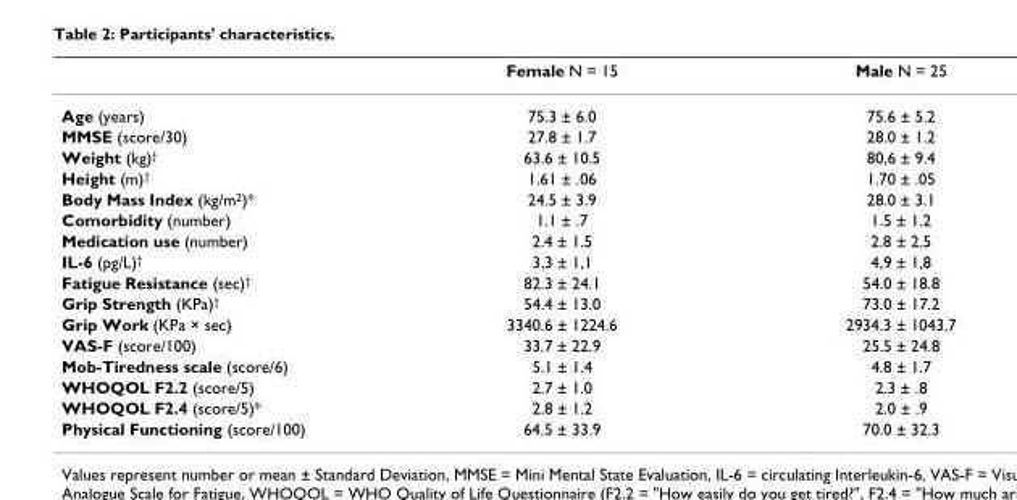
<table><thead><tr><td></td><td>Female N = 15</td><td>Male N = 25</td></tr></thead><tbody><tr><td>Age (years)</td><td>75.3 ± 6.0</td><td>75.6 ± 5.2</td></tr><tr><td>MMSE (score/30)</td><td>27.8 ± 1.7</td><td>28.0 ± 1.2</td></tr><tr><td>Weight (kg)†</td><td>63.6 ± 10.5</td><td>80,6 ± 9.4</td></tr><tr><td>Height (m)†</td><td>1.61 ± .06</td><td>1.70 ± .05</td></tr><tr><td>Body Mass Index (kg/m2)*</td><td>24.5 ± 3.9</td><td>28.0 ± 3.1</td></tr><tr><td>Comorbidity (number)</td><td>1.1 ± .7</td><td>1.5 ± 1.2</td></tr><tr><td>Medication use (number)</td><td>2.4 ± 1.5</td><td>2.8 ± 2.5</td></tr><tr><td>IL-6 (pg/L)†</td><td>3,3 ± 1,1</td><td>4,9 ± 1,8</td></tr><tr><td>Fatigue Resistance (sec)†</td><td>82.3 ± 24.1</td><td>54.0 ± 18.8</td></tr><tr><td>Grip Strength (KPa)†</td><td>54.4 ± 13.0</td><td>73.0 ± 17.2</td></tr><tr><td>Grip Work (KPa × sec)</td><td>3340.6 ± 1224.6</td><td>2934.3 ± 1043.7</td></tr><tr><td>VAS-F (score/100)</td><td>33.7 ± 22.9</td><td>25.5 ± 24.8</td></tr><tr><td>Mob-Tiredness scale (score/6)</td><td>5.1 ± 1.4</td><td>4.8 ± 1.7</td></tr><tr><td>WHOQOL F2.2 (score/5)</td><td>2.7 ± 1.0</td><td>2.3 ± .8</td></tr><tr><td>WHOQOL F2.4 (score/5)*</td><td>2.8 ± 1.2</td><td>2.0 ± .9</td></tr><tr><td>Physical Functioning (score/100)</td><td>64.5 ± 33.9</td><td>70.0 ± 32.3</td></tr></tbody></table>